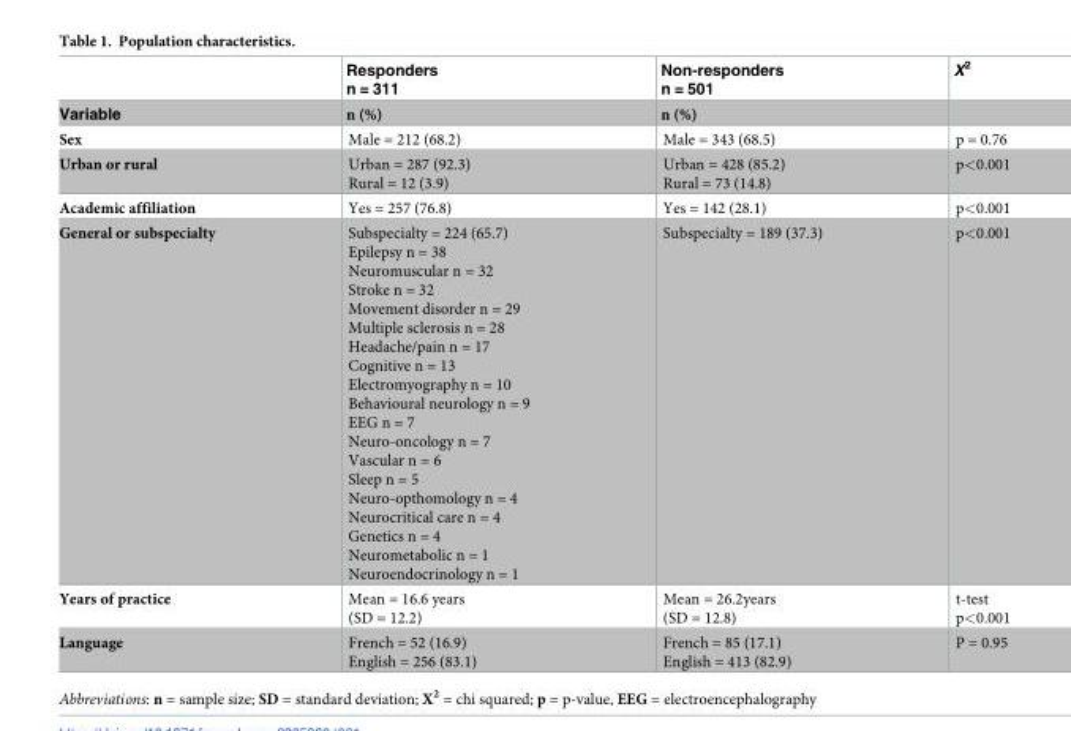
<table><thead><tr><td rowspan="2">Variable</td><td rowspan="2">Responders n = 311 n (%)</td><td rowspan="2">Non-responders n = 501 n (%)</td><td rowspan="2">X<sup>2</sup></td></tr><tr></tr></thead><tbody><tr><td>Sex</td><td>Male = 212 (68.2)</td><td>Male = 343 (68.5)</td><td>p = 0.76</td></tr><tr><td>Urban or rural</td><td>Urban = 287 (92.3) Rural = 12 (3.9)</td><td>Urban = 428 (85.2) Rural = 73 (14.8)</td><td>p&lt;0.001</td></tr><tr><td>Academic affiliation</td><td>Yes = 257 (76.8)</td><td>Yes = 142 (28.1)</td><td>p&lt;0.001</td></tr><tr><td>General or subspecialty</td><td>Subspecialty = 224 (65.7) Epilepsy n = 38 Neuromuscular n = 32 Stroke n = 32 Movement disorder n = 29 Multiple sclerosis n = 28 Headache/pain n = 17 Cognitive n = 13 Electromyography n = 10 Behavioural neurology n = 9 EEG n = 7 Neuro-oncology n = 7 Vascular n = 6 Sleep n = 5 Neuro-opthomology n = 4 Neurocritical care n = 4 Genetics n = 4 Neurometabolic n = 1 Neuroendocrinology n = 1</td><td>Subspecialty = 189 (37.3)</td><td>p&lt;0.001</td></tr><tr><td>Years of practice</td><td>Mean = 16.6 years (SD = 12.2)</td><td>Mean = 26.2years (SD = 12.8)</td><td>t-test p&lt;0.001</td></tr><tr><td>Language</td><td>French = 52 (16.9) English = 256 (83.1)</td><td>French = 85 (17.1) English = 413 (82.9)</td><td>P = 0.95</td></tr></tbody></table>